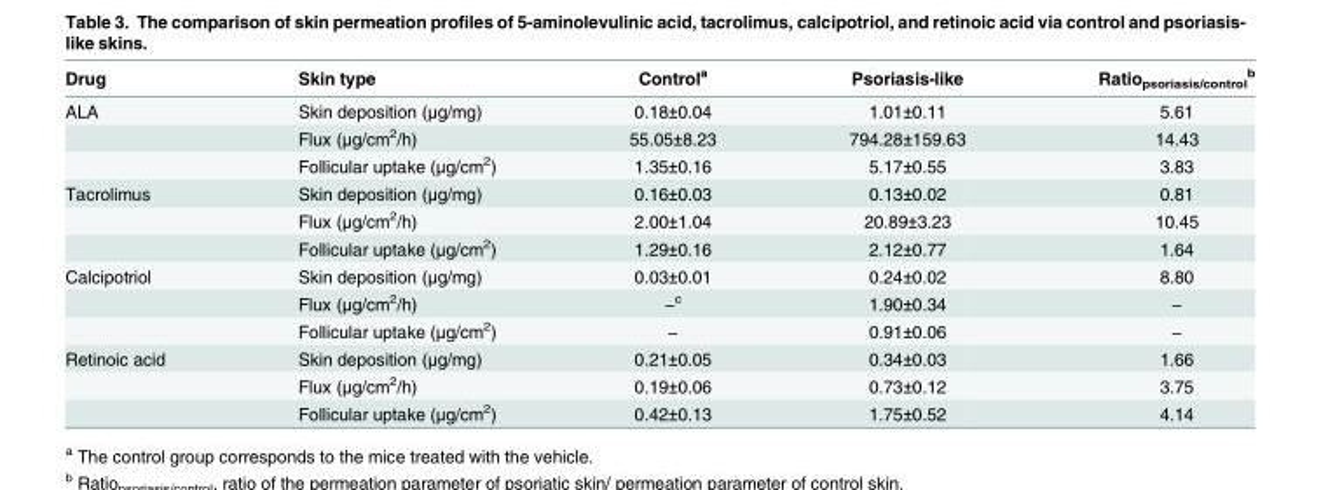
<table><thead><tr><td>Drug</td><td>Skin type</td><td>Control<sup>a</sup></td><td>Psoriasis-like</td><td>Ratio<sub>psoriasis/control</sub> <sup>b</sup></td></tr></thead><tbody><tr><td rowspan="3">ALA</td><td>Skin deposition (μg/mg)</td><td>0.18±0.04</td><td>1.01±0.11</td><td>5.61</td></tr><tr><td>Flux (μg/cm<sup>2</sup>/h)</td><td>55.05±8.23</td><td>794.28±159.63</td><td>14.43</td></tr><tr><td>Follicular uptake (μg/cm<sup>2</sup>)</td><td>1.35±0.16</td><td>5.17±0.55</td><td>3.83</td></tr><tr><td rowspan="3">Tacrolimus</td><td>Skin deposition (μg/mg)</td><td>0.16±0.03</td><td>0.13±0.02</td><td>0.81</td></tr><tr><td>Flux (μg/cm<sup>2</sup>/h)</td><td>2.00±1.04</td><td>20.89±3.23</td><td>10.45</td></tr><tr><td>Follicular uptake (μg/cm<sup>2</sup>)</td><td>1.29±0.16</td><td>2.12±0.77</td><td>1.64</td></tr><tr><td rowspan="3">Calcipotriol</td><td>Skin deposition (μg/mg)</td><td>0.03±0.01</td><td>0.24±0.02</td><td>8.80</td></tr><tr><td>Flux (μg/cm<sup>2</sup>/h)</td><td>―<sup>c</sup></td><td>1.90±0.34</td><td>―</td></tr><tr><td>Follicular uptake (μg/cm<sup>2</sup>)</td><td>―</td><td>0.91±0.06</td><td>―</td></tr><tr><td rowspan="3">Retinoic acid</td><td>Skin deposition (μg/mg)</td><td>0.21±0.05</td><td>0.34±0.03</td><td>1.66</td></tr><tr><td>Flux (μg/cm<sup>2</sup>/h)</td><td>0.19±0.06</td><td>0.73±0.12</td><td>3.75</td></tr><tr><td>Follicular uptake (μg/cm<sup>2</sup>)</td><td>0.42±0.13</td><td>1.75±0.52</td><td>4.14</td></tr></tbody></table>